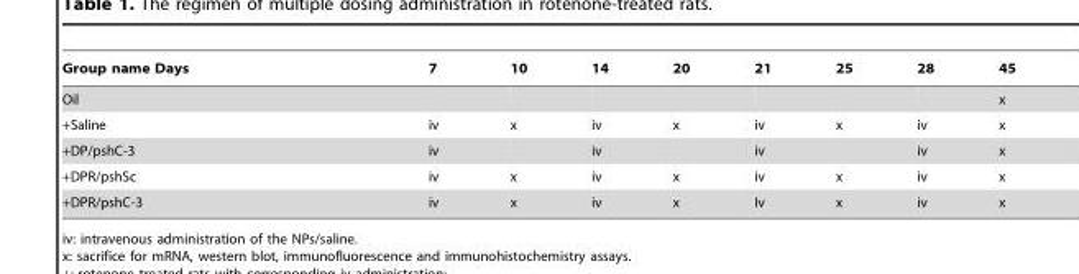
<table><thead><tr><td>Group name Days</td><td>7</td><td>10</td><td>14</td><td>20</td><td>21</td><td>25</td><td>28</td><td>45</td></tr></thead><tbody><tr><td>Oil</td><td></td><td></td><td></td><td></td><td></td><td></td><td></td><td>x</td></tr><tr><td>+Saline</td><td>iv</td><td>x</td><td>iv</td><td>x</td><td>iv</td><td>x</td><td>iv</td><td>x</td></tr><tr><td>+DP/pshC-3</td><td>iv</td><td></td><td>iv</td><td></td><td>iv</td><td></td><td>iv</td><td>x</td></tr><tr><td>+DPR/pshSc</td><td>iv</td><td>x</td><td>iv</td><td>x</td><td>iv</td><td>x</td><td>iv</td><td>x</td></tr><tr><td>+DPR/pshC-3</td><td>iv</td><td>x</td><td>iv</td><td>x</td><td>Iv</td><td>x</td><td>iv</td><td>x</td></tr></tbody></table>